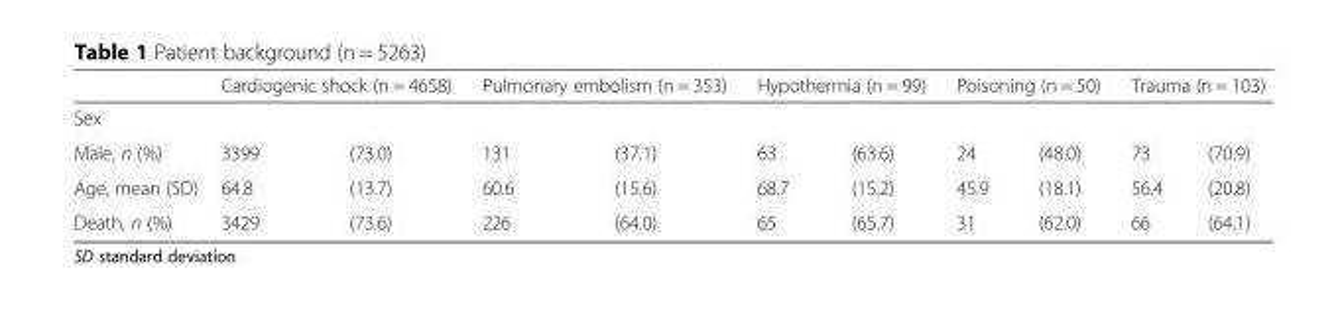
<table><thead><tr><td rowspan="2">Sex</td><td colspan="2">Cardiogenic shock (n = 4658)</td><td colspan="2">Pulmonary embolism (n = 353)</td><td colspan="2">Hypothermia (n = 99)</td><td colspan="2">Poisoning (n = 50)</td><td colspan="2">Trauma (n = 103)</td></tr><tr><td></td><td></td><td></td><td></td><td></td><td></td><td></td><td></td><td></td><td></td></tr></thead><tbody><tr><td>Male, n (%)</td><td>3399</td><td>(73.0)</td><td>131</td><td>(37.1)</td><td>63</td><td>(63.6)</td><td>24</td><td>(48.0)</td><td>73</td><td>(70.9)</td></tr><tr><td>Age, mean (SD)</td><td>64.8</td><td>(13.7)</td><td>60.6</td><td>(15.6)</td><td>68.7</td><td>(15.2)</td><td>45.9</td><td>(18.1)</td><td>56.4</td><td>(20.8)</td></tr><tr><td>Death, n (%)</td><td>3429</td><td>(73.6)</td><td>226</td><td>(64.0)</td><td>65</td><td>(65.7)</td><td>31</td><td>(62.0)</td><td>66</td><td>(64.1)</td></tr></tbody></table>